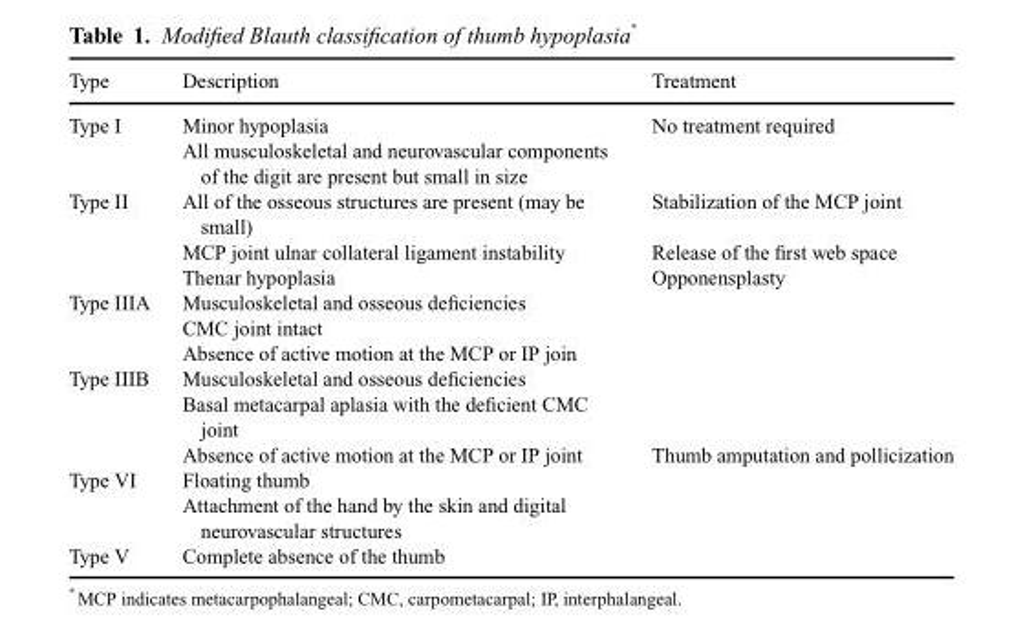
<table><thead><tr><td>Type</td><td>Description</td><td>Treatment</td></tr></thead><tbody><tr><td rowspan="2">Type I</td><td>Minor hypoplasia</td><td>No treatment required</td></tr><tr><td>All musculoskeletal and neurovascular components of the digit are present but small in size</td><td></td></tr><tr><td rowspan="3">Type II</td><td>All of the osseous structures are present (may be small)</td><td>Stabilization of the MCP joint</td></tr><tr><td>MCP joint ulnar collateral ligament instability</td><td>Release of the first web space</td></tr><tr><td>Thenar hypoplasia</td><td>Opponensplasty</td></tr><tr><td rowspan="3">Type IIIA</td><td>Musculoskeletal and osseous deficiencies</td><td></td></tr><tr><td>CMC joint intact</td><td></td></tr><tr><td>Absence of active motion at the MCP or IP join</td><td></td></tr><tr><td rowspan="3">Type IIIB</td><td>Musculoskeletal and osseous deficiencies</td><td></td></tr><tr><td>Basal metacarpal aplasia with the deficient CMC joint</td><td></td></tr><tr><td>Absence of active motion at the MCP or IP joint</td><td>Thumb amputation and pollicization</td></tr><tr><td rowspan="2">Type VI</td><td>Floating thumb</td><td></td></tr><tr><td>Attachment of the hand by the skin and digital neurovascular structures</td><td></td></tr><tr><td>Type V</td><td>Complete absence of the thumb</td><td></td></tr></tbody></table>